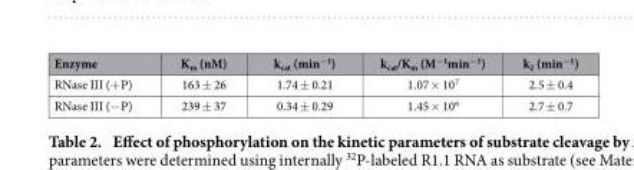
<table><thead><tr><td>Enzyme</td><td>K<sub>m</sub> (nM)</td><td>k<sub>cat</sub> (min<sup>−1</sup>)</td><td>k<sub>cat</sub>/K<sub>m</sub> (M<sup>−1</sup>min<sup>−1</sup>)</td><td>k<sub>2</sub> (min<sup>−1</sup>)</td></tr></thead><tbody><tr><td>RNase III (+ P)</td><td>163 ± 26</td><td>1.74 ± 0.21</td><td>1.07 × 10<sup>7</sup></td><td>2.5 ± 0.4</td></tr><tr><td>RNase III (− P)</td><td>239 ± 37</td><td>0.34 ± 0.29</td><td>1.45 × 10<sup>6</sup></td><td>2.7 ± 0.7</td></tr></tbody></table>